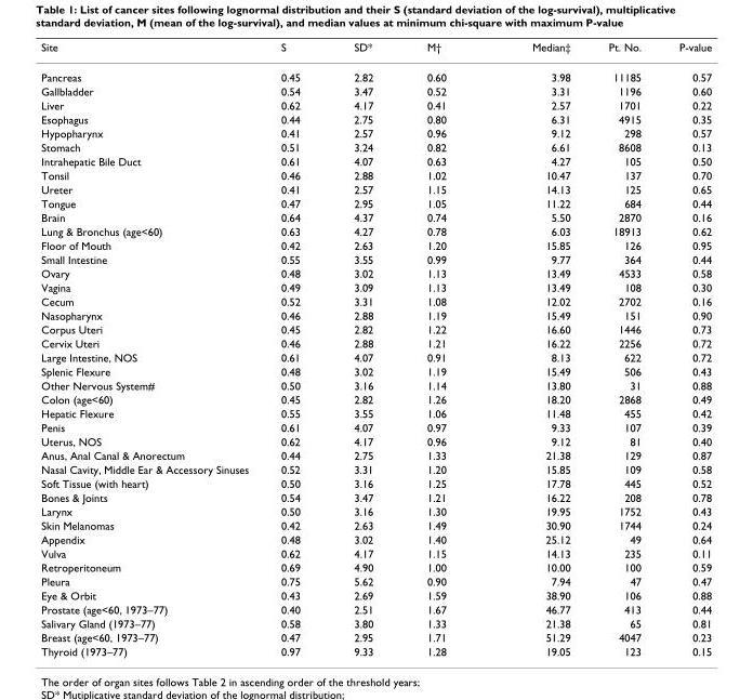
<table><thead><tr><td>Site</td><td>S</td><td>SD*</td><td>M†</td><td>Median‡</td><td>Pt. No.</td><td>P-value</td></tr></thead><tbody><tr><td>Pancreas</td><td>0.45</td><td>2.82</td><td>0.60</td><td>3.98</td><td>11185</td><td>0.57</td></tr><tr><td>Gallbladder</td><td>0.54</td><td>3.47</td><td>0.52</td><td>3.31</td><td>1196</td><td>0.60</td></tr><tr><td>Liver</td><td>0.62</td><td>4.17</td><td>0.41</td><td>2.57</td><td>1701</td><td>0.22</td></tr><tr><td>Esophagus</td><td>0.44</td><td>2.75</td><td>0.80</td><td>6.31</td><td>4915</td><td>0.35</td></tr><tr><td>Hypopharynx</td><td>0.41</td><td>2.57</td><td>0.96</td><td>9.12</td><td>298</td><td>0.57</td></tr><tr><td>Stomach</td><td>0.51</td><td>3.24</td><td>0.82</td><td>6.61</td><td>8608</td><td>0.13</td></tr><tr><td>Intrahepatic Bile Duct</td><td>0.61</td><td>4.07</td><td>0.63</td><td>4.27</td><td>105</td><td>0.50</td></tr><tr><td>Tonsil</td><td>0.46</td><td>2.88</td><td>1.02</td><td>10.47</td><td>137</td><td>0.70</td></tr><tr><td>Ureter</td><td>0.41</td><td>2.57</td><td>1.15</td><td>14.13</td><td>125</td><td>0.65</td></tr><tr><td>Tongue</td><td>0.47</td><td>2.95</td><td>1.05</td><td>11.22</td><td>684</td><td>0.44</td></tr><tr><td>Brain</td><td>0.64</td><td>4.37</td><td>0.74</td><td>5.50</td><td>2870</td><td>0.16</td></tr><tr><td>Lung &amp; Bronchus (age&lt;60)</td><td>0.63</td><td>4.27</td><td>0.78</td><td>6.03</td><td>18913</td><td>0.62</td></tr><tr><td>Floor of Mouth</td><td>0.42</td><td>2.63</td><td>1.20</td><td>15.85</td><td>126</td><td>0.95</td></tr><tr><td>Small Intestine</td><td>0.55</td><td>3.55</td><td>0.99</td><td>9.77</td><td>364</td><td>0.44</td></tr><tr><td>Ovary</td><td>0.48</td><td>3.02</td><td>1.13</td><td>13.49</td><td>4533</td><td>0.58</td></tr><tr><td>Vagina</td><td>0.49</td><td>3.09</td><td>1.13</td><td>13.49</td><td>108</td><td>0.30</td></tr><tr><td>Cecum</td><td>0.52</td><td>3.31</td><td>1.08</td><td>12.02</td><td>2702</td><td>0.16</td></tr><tr><td>Nasopharynx</td><td>0.46</td><td>2.88</td><td>1.19</td><td>15.49</td><td>151</td><td>0.90</td></tr><tr><td>Corpus Uteri</td><td>0.45</td><td>2.82</td><td>1.22</td><td>16.60</td><td>1446</td><td>0.73</td></tr><tr><td>Cervix Uteri</td><td>0.46</td><td>2.88</td><td>1.21</td><td>16.22</td><td>2256</td><td>0.72</td></tr><tr><td>Large Intestine, NOS</td><td>0.61</td><td>4.07</td><td>0.91</td><td>8.13</td><td>622</td><td>0.72</td></tr><tr><td>Splenic Flexure</td><td>0.48</td><td>3.02</td><td>1.19</td><td>15.49</td><td>506</td><td>0.43</td></tr><tr><td>Other Nervous System#</td><td>0.50</td><td>3.16</td><td>1.14</td><td>13.80</td><td>31</td><td>0.88</td></tr><tr><td>Colon (age&lt;60)</td><td>0.45</td><td>2.82</td><td>1.26</td><td>18.20</td><td>2868</td><td>0.49</td></tr><tr><td>Hepatic Flexure</td><td>0.55</td><td>3.55</td><td>1.06</td><td>11.48</td><td>455</td><td>0.42</td></tr><tr><td>Penis</td><td>0.61</td><td>4.07</td><td>0.97</td><td>9.33</td><td>107</td><td>0.39</td></tr><tr><td>Uterus, NOS</td><td>0.62</td><td>4.17</td><td>0.96</td><td>9.12</td><td>81</td><td>0.40</td></tr><tr><td>Anus, Anal Canal &amp; Anorectum</td><td>0.44</td><td>2.75</td><td>1.33</td><td>21.38</td><td>129</td><td>0.87</td></tr><tr><td>Nasal Cavity, Middle Ear &amp; Accessory Sinuses</td><td>0.52</td><td>3.31</td><td>1.20</td><td>15.85</td><td>109</td><td>0.58</td></tr><tr><td>Soft Tissue (with heart)</td><td>0.50</td><td>3.16</td><td>1.25</td><td>17.78</td><td>445</td><td>0.52</td></tr><tr><td>Bones &amp; Joints</td><td>0.54</td><td>3.47</td><td>1.21</td><td>16.22</td><td>208</td><td>0.78</td></tr><tr><td>Larynx</td><td>0.50</td><td>3.16</td><td>1.30</td><td>19.95</td><td>1752</td><td>0.43</td></tr><tr><td>Skin Melanomas</td><td>0.42</td><td>2.63</td><td>1.49</td><td>30.90</td><td>1744</td><td>0.24</td></tr><tr><td>Appendix</td><td>0.48</td><td>3.02</td><td>1.40</td><td>25.12</td><td>49</td><td>0.64</td></tr><tr><td>Vulva</td><td>0.62</td><td>4.17</td><td>1.15</td><td>14.13</td><td>235</td><td>0.11</td></tr><tr><td>Retroperitoneum</td><td>0.69</td><td>4.90</td><td>1.00</td><td>10.00</td><td>100</td><td>0.59</td></tr><tr><td>Pleura</td><td>0.75</td><td>5.62</td><td>0.90</td><td>7.94</td><td>47</td><td>0.47</td></tr><tr><td>Eye &amp; Orbit</td><td>0.43</td><td>2.69</td><td>1.59</td><td>38.90</td><td>106</td><td>0.88</td></tr><tr><td>Prostate (age&lt;60, 1973–77)</td><td>0.40</td><td>2.51</td><td>1.67</td><td>46.77</td><td>413</td><td>0.44</td></tr><tr><td>Salivary Gland (1973–77)</td><td>0.58</td><td>3.80</td><td>1.33</td><td>21.38</td><td>65</td><td>0.81</td></tr><tr><td>Breast (age&lt;60, 1973–77)</td><td>0.47</td><td>2.95</td><td>1.71</td><td>51.29</td><td>4047</td><td>0.23</td></tr><tr><td>Thyroid (1973–77)</td><td>0.97</td><td>9.33</td><td>1.28</td><td>19.05</td><td>123</td><td>0.15</td></tr></tbody></table>